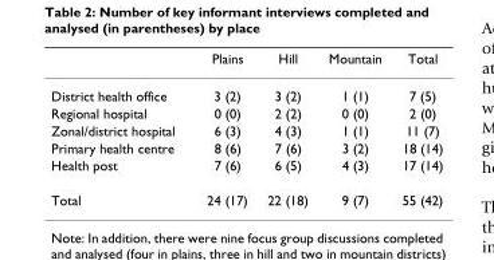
<table><thead><tr><td></td><td>Plains</td><td>Hill</td><td>Mountain</td><td>Total</td></tr></thead><tbody><tr><td>District health office</td><td>3 (2)</td><td>3 (2)</td><td>1 (1)</td><td>7 (5)</td></tr><tr><td>Regional hospital</td><td>0 (0)</td><td>2 (2)</td><td>0 (0)</td><td>2 (0)</td></tr><tr><td>Zonal/district hospital</td><td>6 (3)</td><td>4 (3)</td><td>1 (1)</td><td>11 (7)</td></tr><tr><td>Primary health centre</td><td>8 (6)</td><td>7 (6)</td><td>3 (2)</td><td>18 (14)</td></tr><tr><td>Health post</td><td>7 (6)</td><td>6 (5)</td><td>4 (3)</td><td>17 (14)</td></tr><tr><td>Total</td><td>24 (17)</td><td>22 (18)</td><td>9 (7)</td><td>55 (42)</td></tr></tbody></table>